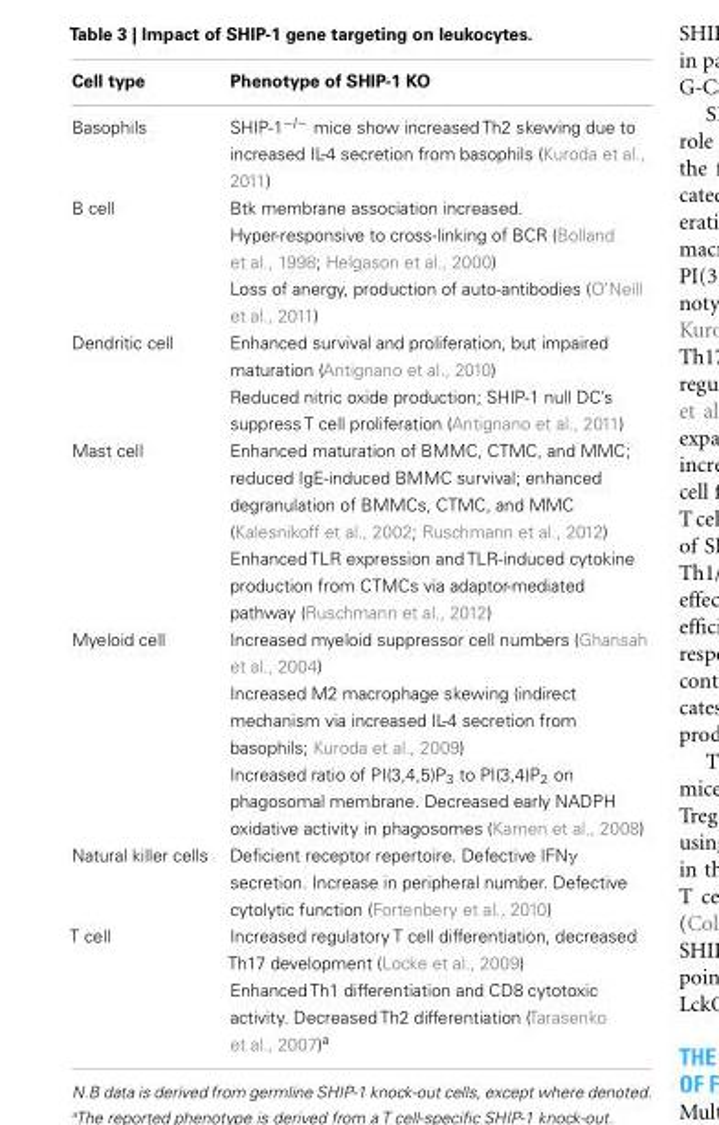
<table><thead><tr><td>Cell type</td><td>Phenotype of SHIP-1 KO</td></tr></thead><tbody><tr><td>Basophils</td><td>SHIP-1<sup>−/−</sup> mice show increased Th2 skewing due to increased IL-4 secretion from basophils (Kuroda et al., 2011)</td></tr><tr><td rowspan="2">B cell</td><td>Btk membrane association increased. Hyper-responsive to cross-linking of BCR (Bolland et al., 1998; Helgason et al., 2000)</td></tr><tr><td>Loss of anergy, production of auto-antibodies (O’Neill et al., 2011)</td></tr><tr><td rowspan="2">Dendritic cell</td><td>Enhanced survival and proliferation, but impaired maturation (Antignano et al., 2010)</td></tr><tr><td>Reduced nitric oxide production; SHIP-1 null DC’s suppress T cell proliferation (Antignano et al., 2011)</td></tr><tr><td rowspan="2">Mast cell</td><td>Enhanced maturation of BMMC, CTMC, and MMC; reduced IgE-induced BMMC survival; enhanced degranulation of BMMCs, CTMC, and MMC (Kalesnikoff et al., 2002; Ruschmann et al., 2012)</td></tr><tr><td>Enhanced TLR expression and TLR-induced cytokine production from CTMCs via adaptor-mediated pathway (Ruschmann et al., 2012)</td></tr><tr><td rowspan="3">Myeloid cell</td><td>Increased myeloid suppressor cell numbers (Ghansah et al., 2004)</td></tr><tr><td>Increased M2 macrophage skewing (indirect mechanism via increased IL-4 secretion from basophils; Kuroda et al., 2009)</td></tr><tr><td>Increased ratio of PI(3,4,5)P<sub>3</sub> to PI(3,4)P<sub>2</sub> on phagosomal membrane. Decreased early NADPH oxidative activity in phagosomes (Kamen et al., 2008)</td></tr><tr><td>Natural killer cells</td><td>Deficient receptor repertoire. Defective IFNγ secretion. Increase in peripheral number. Defective cytolytic function (Fortenbery et al., 2010)</td></tr><tr><td rowspan="2">T cell</td><td>Increased regulatory T cell differentiation, decreased Th17 development (Locke et al., 2009)</td></tr><tr><td>Enhanced Th1 differentiation and CD8 cytotoxic activity. Decreased Th2 differentiation (Tarasenko et al., 2007)<sup>a</sup></td></tr></tbody></table>